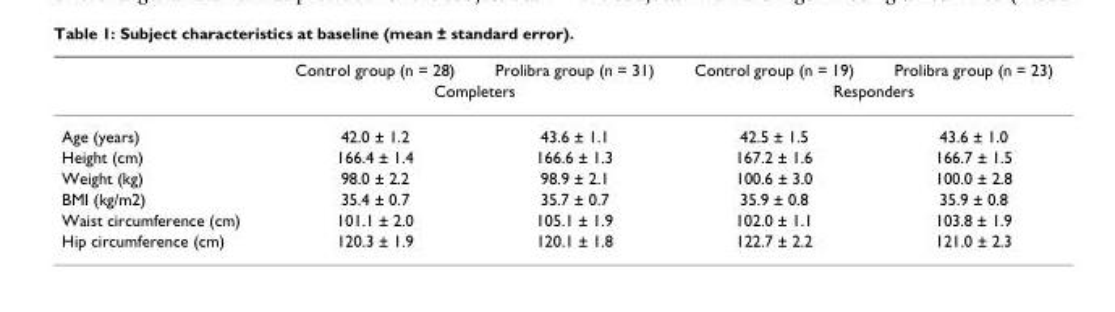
<table><thead><tr><td rowspan="2"></td><td>Control group (n = 28)</td><td>Prolibra group (n = 31)</td><td>Control group (n = 19)</td><td>Prolibra group (n = 23)</td></tr><tr><td colspan="2">Completers</td><td colspan="2">Responders</td></tr></thead><tbody><tr><td>Age (years)</td><td>42.0 ± 1.2</td><td>43.6 ± 1.1</td><td>42.5 ± 1.5</td><td>43.6 ± 1.0</td></tr><tr><td>Height (cm)</td><td>166.4 ± 1.4</td><td>166.6 ± 1.3</td><td>167.2 ± 1.6</td><td>166.7 ± 1.5</td></tr><tr><td>Weight (kg)</td><td>98.0 ± 2.2</td><td>98.9 ± 2.1</td><td>100.6 ± 3.0</td><td>100.0 ± 2.8</td></tr><tr><td>BMI (kg/m2)</td><td>35.4 ± 0.7</td><td>35.7 ± 0.7</td><td>35.9 ± 0.8</td><td>35.9 ± 0.8</td></tr><tr><td>Waist circumference (cm)</td><td>101.1 ± 2.0</td><td>105.1 ± 1.9</td><td>102.0 ± 1.1</td><td>103.8 ± 1.9</td></tr><tr><td>Hip circumference (cm)</td><td>120.3 ± 1.9</td><td>120.1 ± 1.8</td><td>122.7 ± 2.2</td><td>121.0 ± 2.3</td></tr></tbody></table>